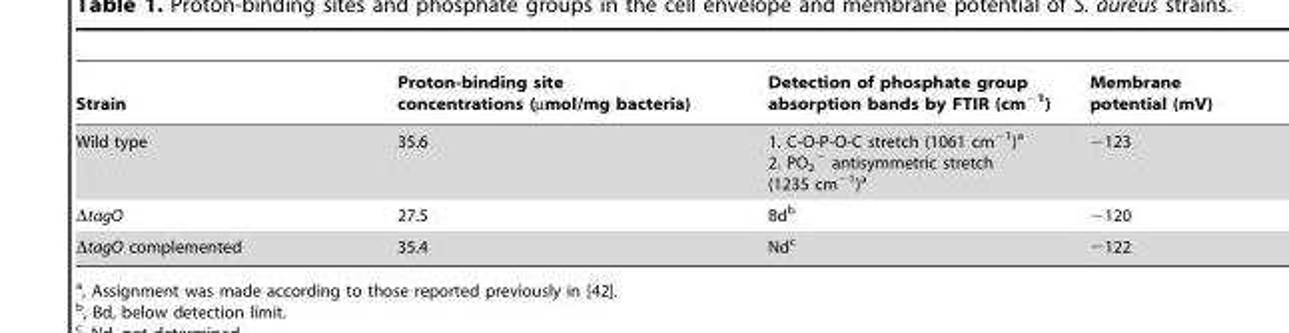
<table><thead><tr><td>Strain</td><td>Proton-binding site concentrations (µmol/mg bacteria)</td><td>Detection of phosphate group absorption bands by FTIR (cm<sup>−1</sup>)</td><td>Membrane potential (mV)</td></tr></thead><tbody><tr><td>Wild type</td><td>35.6</td><td>1. C-O-P-O-C stretch (1061 cm<sup>−1</sup>)<sup>a</sup> 2. PO<sub>2</sub> <sup>−</sup> antisymmetric stretch (1235 cm<sup>−1</sup>)<sup>a</sup></td><td>−123</td></tr><tr><td>ΔtagO</td><td>27.5</td><td>Bd<sup>b</sup></td><td>−120</td></tr><tr><td>ΔtagO complemented</td><td>35.4</td><td>Nd<sup>c</sup></td><td>−122</td></tr></tbody></table>